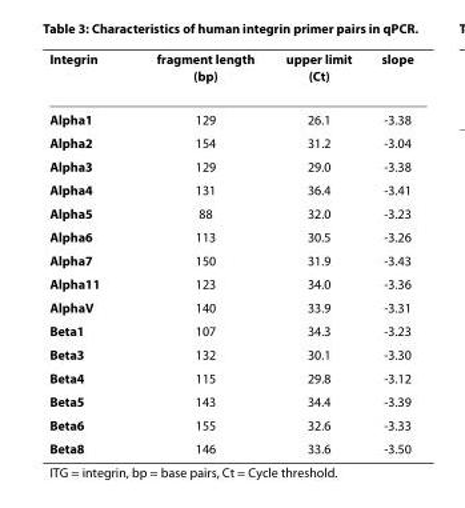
<table><thead><tr><td>Integrin</td><td>fragment length (bp)</td><td>upper limit (Ct)</td><td>slope</td></tr></thead><tbody><tr><td>Alpha1</td><td>129</td><td>26.1</td><td>-3.38</td></tr><tr><td>Alpha2</td><td>154</td><td>31.2</td><td>-3.04</td></tr><tr><td>Alpha3</td><td>129</td><td>29.0</td><td>-3.38</td></tr><tr><td>Alpha4</td><td>131</td><td>36.4</td><td>-3.41</td></tr><tr><td>Alpha5</td><td>88</td><td>32.0</td><td>-3.23</td></tr><tr><td>Alpha6</td><td>113</td><td>30.5</td><td>-3.26</td></tr><tr><td>Alpha7</td><td>150</td><td>31.9</td><td>-3.43</td></tr><tr><td>Alpha11</td><td>123</td><td>34.0</td><td>-3.36</td></tr><tr><td>AlphaV</td><td>140</td><td>33.9</td><td>-3.31</td></tr><tr><td>Beta1</td><td>107</td><td>34.3</td><td>-3.23</td></tr><tr><td>Beta3</td><td>132</td><td>30.1</td><td>-3.30</td></tr><tr><td>Beta4</td><td>115</td><td>29.8</td><td>-3.12</td></tr><tr><td>Beta5</td><td>143</td><td>34.4</td><td>-3.39</td></tr><tr><td>Beta6</td><td>155</td><td>32.6</td><td>-3.33</td></tr><tr><td>Beta8</td><td>146</td><td>33.6</td><td>-3.50</td></tr></tbody></table>